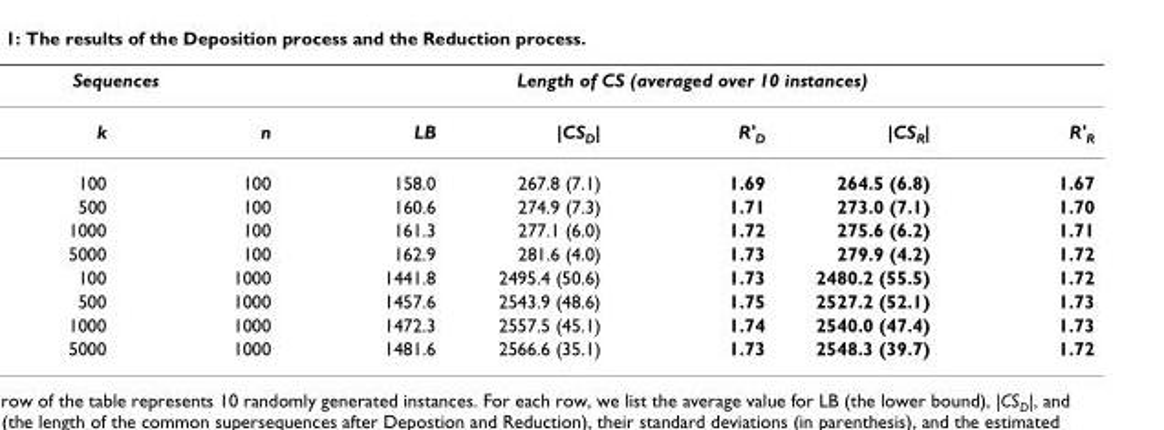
<table><thead><tr><td colspan="2">Sequences</td><td colspan="5">Length of CS (averaged over 10 instances)</td></tr><tr><td>k</td><td>n</td><td>LB</td><td>|CSD|</td><td>R&#x27;D</td><td>|CSR|</td><td>R&#x27;R</td></tr></thead><tbody><tr><td>100</td><td>100</td><td>158.0</td><td>267.8 (7.1)</td><td>1.69</td><td>264.5 (6.8)</td><td>1.67</td></tr><tr><td>500</td><td>100</td><td>160.6</td><td>274.9 (7.3)</td><td>1.71</td><td>273.0 (7.1)</td><td>1.70</td></tr><tr><td>1000</td><td>100</td><td>161.3</td><td>277.1 (6.0)</td><td>1.72</td><td>275.6 (6.2)</td><td>1.71</td></tr><tr><td>5000</td><td>100</td><td>162.9</td><td>281.6 (4.0)</td><td>1.73</td><td>279.9 (4.2)</td><td>1.72</td></tr><tr><td>100</td><td>1000</td><td>1441.8</td><td>2495.4 (50.6)</td><td>1.73</td><td>2480.2 (55.5)</td><td>1.72</td></tr><tr><td>500</td><td>1000</td><td>1457.6</td><td>2543.9 (48.6)</td><td>1.75</td><td>2527.2 (52.1)</td><td>1.73</td></tr><tr><td>1000</td><td>1000</td><td>1472.3</td><td>2557.5 (45.1)</td><td>1.74</td><td>2540.0 (47.4)</td><td>1.73</td></tr><tr><td>5000</td><td>1000</td><td>1481.6</td><td>2566.6 (35.1)</td><td>1.73</td><td>2548.3 (39.7)</td><td>1.72</td></tr></tbody></table>